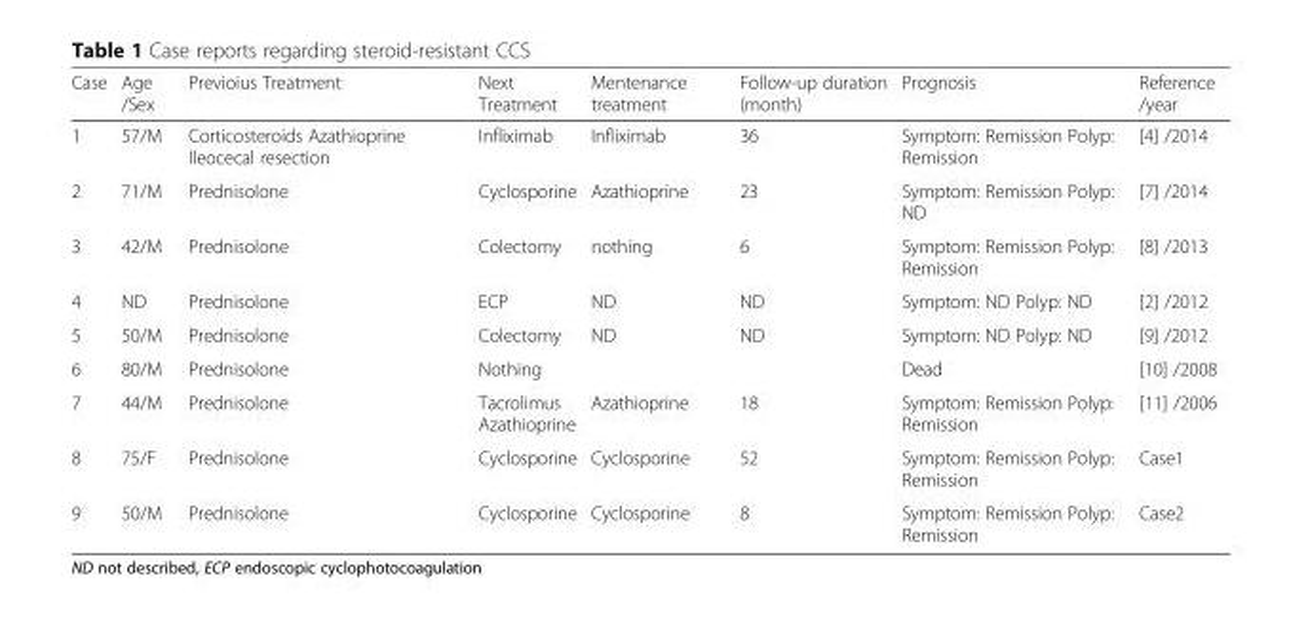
<table><thead><tr><td>Case</td><td>Age /Sex</td><td>Previoius Treatment</td><td>Next Treatment</td><td>Mentenance treatment</td><td>Follow-up duration (month)</td><td>Prognosis</td><td>Reference /year</td></tr></thead><tbody><tr><td>1</td><td>57/M</td><td>Corticosteroids Azathioprine Ileocecal resection</td><td>Infliximab</td><td>Infliximab</td><td>36</td><td>Symptom: Remission Polyp: Remission</td><td>[4] /2014</td></tr><tr><td>2</td><td>71/M</td><td>Prednisolone</td><td>Cyclosporine</td><td>Azathioprine</td><td>23</td><td>Symptom: Remission Polyp: ND</td><td>[7] /2014</td></tr><tr><td>3</td><td>42/M</td><td>Prednisolone</td><td>Colectomy</td><td>nothing</td><td>6</td><td>Symptom: Remission Polyp: Remission</td><td>[8] /2013</td></tr><tr><td>4</td><td>ND</td><td>Prednisolone</td><td>ECP</td><td>ND</td><td>ND</td><td>Symptom: ND Polyp: ND</td><td>[2] /2012</td></tr><tr><td>5</td><td>50/M</td><td>Prednisolone</td><td>Colectomy</td><td>ND</td><td>ND</td><td>Symptom: ND Polyp: ND</td><td>[9] /2012</td></tr><tr><td>6</td><td>80/M</td><td>Prednisolone</td><td>Nothing</td><td></td><td></td><td>Dead</td><td>[10] /2008</td></tr><tr><td>7</td><td>44/M</td><td>Prednisolone</td><td>Tacrolimus Azathioprine</td><td>Azathioprine</td><td>18</td><td>Symptom: Remission Polyp: Remission</td><td>[11] /2006</td></tr><tr><td>8</td><td>75/F</td><td>Prednisolone</td><td>Cyclosporine</td><td>Cyclosporine</td><td>52</td><td>Symptom: Remission Polyp: Remission</td><td>Case1</td></tr><tr><td>9</td><td>50/M</td><td>Prednisolone</td><td>Cyclosporine</td><td>Cyclosporine</td><td>8</td><td>Symptom: Remission Polyp: Remission</td><td>Case2</td></tr></tbody></table>